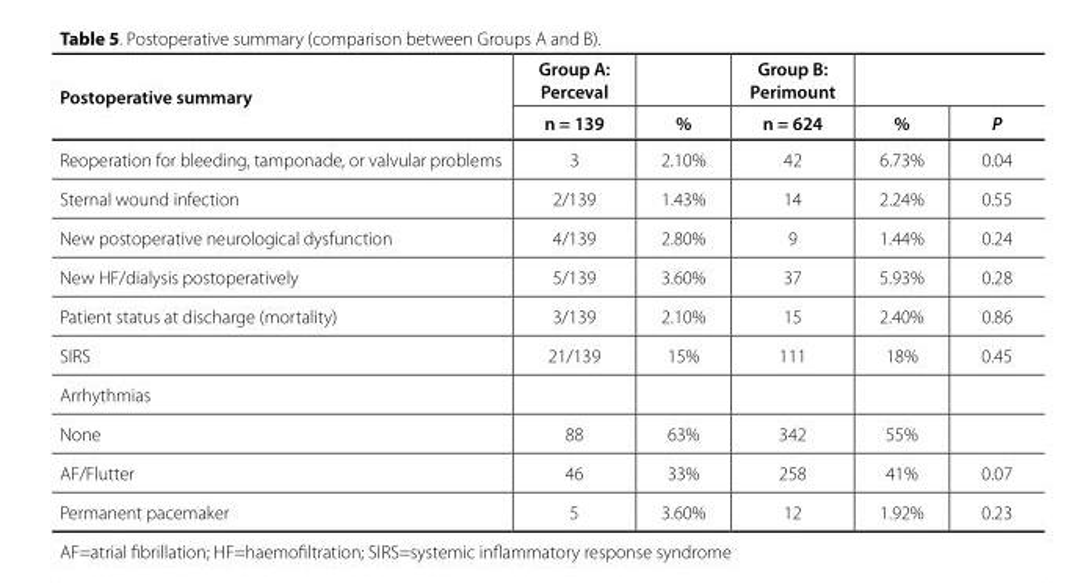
<table><thead><tr><td rowspan="2">Postoperative summary</td><td rowspan="2">Group A: Perceval n = 139</td><td rowspan="2">%</td><td rowspan="2">Group B: Perimount n = 624</td><td rowspan="2">%</td><td rowspan="2">P</td></tr><tr></tr></thead><tbody><tr><td>Reoperation for bleeding, tamponade, or valvular problems</td><td>3</td><td>2.10%</td><td>42</td><td>6.73%</td><td>0.04</td></tr><tr><td>Sternal wound infection</td><td>2/139</td><td>1.43%</td><td>14</td><td>2.24%</td><td>0.55</td></tr><tr><td>New postoperative neurological dysfunction</td><td>4/139</td><td>2.80%</td><td>9</td><td>1.44%</td><td>0.24</td></tr><tr><td>New HF/dialysis postoperatively</td><td>5/139</td><td>3.60%</td><td>37</td><td>5.93%</td><td>0.28</td></tr><tr><td>Patient status at discharge (mortality)</td><td>3/139</td><td>2.10%</td><td>15</td><td>2.40%</td><td>0.86</td></tr><tr><td>SIRS</td><td>21/139</td><td>15%</td><td>111</td><td>18%</td><td>0.45</td></tr><tr><td colspan="6">Arrhythmias</td></tr><tr><td>None</td><td>88</td><td>63%</td><td>342</td><td>55%</td><td></td></tr><tr><td>AF/Flutter</td><td>46</td><td>33%</td><td>258</td><td>41%</td><td>0.07</td></tr><tr><td>Permanent pacemaker</td><td>5</td><td>3.60%</td><td>12</td><td>1.92%</td><td>0.23</td></tr></tbody></table>